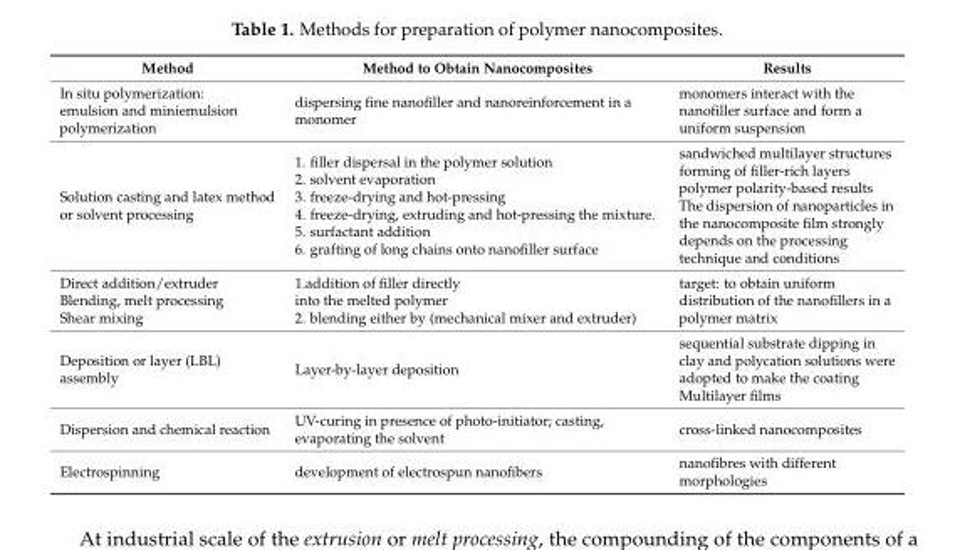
<table><thead><tr><td>Method</td><td>Method to Obtain Nanocomposites</td><td>Results</td></tr></thead><tbody><tr><td>In situ polymerization: emulsion and miniemulsion polymerization</td><td>dispersing fine nanofiller and nanoreinforcement in a monomer</td><td>monomers interact with the nanofiller surface and form a uniform suspension</td></tr><tr><td>Solution casting and latex method or solvent processing</td><td>1. filler dispersal in the polymer solution 2. solvent evaporation 3. freeze-drying and hot-pressing 4. freeze-drying, extruding and hot-pressing the mixture. 5. surfactant addition 6. grafting of long chains onto nanofiller surface</td><td>sandwiched multilayer structures forming of filler-rich layers polymer polarity-based results The dispersion of nanoparticles in the nanocomposite film strongly depends on the processing technique and conditions</td></tr><tr><td>Direct addition/extruder Blending, melt processing Shear mixing</td><td>1.addition of filler directly into the melted polymer 2. blending either by (mechanical mixer and extruder)</td><td>target: to obtain uniform distribution of the nanofillers in a polymer matrix</td></tr><tr><td>Deposition or layer (LBL) assembly</td><td>Layer-by-layer deposition</td><td>sequential substrate dipping in clay and polycation solutions were adopted to make the coating Multilayer films</td></tr><tr><td>Dispersion and chemical reaction</td><td>UV-curing in presence of photo-initiator; casting, evaporating the solvent</td><td>cross-linked nanocomposites</td></tr><tr><td>Electrospinning</td><td>development of electrospun nanofibers</td><td>nanofibres with different morphologies</td></tr></tbody></table>